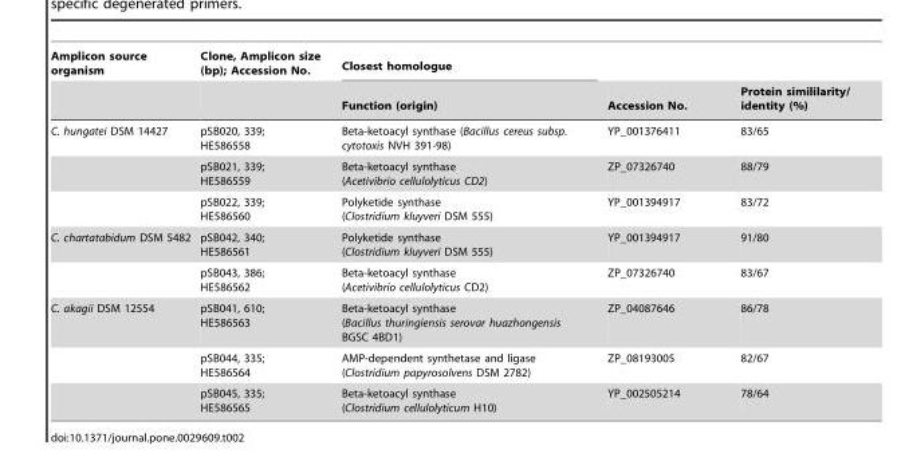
<table><thead><tr><td rowspan="2">Amplicon source organism</td><td rowspan="2">Clone, Amplicon size (bp); Accession No.</td><td rowspan="2">Closest homologue Function (origin)</td><td rowspan="2">Accession No.</td><td rowspan="2">Protein simililarity/ identity (%)</td></tr><tr></tr></thead><tbody><tr><td rowspan="3">C. hungatei DSM 14427</td><td>pSB020, 339; HE586558</td><td>Beta-ketoacyl synthase (Bacillus cereus subsp. cytotoxis NVH 391-98)</td><td>YP_001376411</td><td>83/65</td></tr><tr><td>pSB021, 339; HE586559</td><td>Beta-ketoacyl synthase (Acetivibrio cellulolyticus CD2)</td><td>ZP_07326740</td><td>88/79</td></tr><tr><td>pSB022, 339; HE586560</td><td>Polyketide synthase (Clostridium kluyveri DSM 555)</td><td>YP_001394917</td><td>83/72</td></tr><tr><td rowspan="2">C. chartatabidum DSM 5482</td><td>pSB042, 340; HE586561</td><td>Polyketide synthase (Clostridium kluyveri DSM 555)</td><td>YP_001394917</td><td>91/80</td></tr><tr><td>pSB043, 386; HE586562</td><td>Beta-ketoacyl synthase (Acetivibrio cellulolyticus CD2)</td><td>ZP_07326740</td><td>83/67</td></tr><tr><td rowspan="3">C. akagii DSM 12554</td><td>pSB041, 610; HE586563</td><td>Beta-ketoacyl synthase (Bacillus thuringiensis serovar huazhongensis BGSC 4BD1)</td><td>ZP_04087646</td><td>86/78</td></tr><tr><td>pSB044, 335; HE586564</td><td>AMP-dependent synthetase and ligase (Clostridium papyrosolvens DSM 2782)</td><td>ZP_08193005</td><td>82/67</td></tr><tr><td>pSB045, 335; HE586565</td><td>Beta-ketoacyl synthase (Clostridium cellulolyticum H10)</td><td>YP_002505214</td><td>78/64</td></tr></tbody></table>